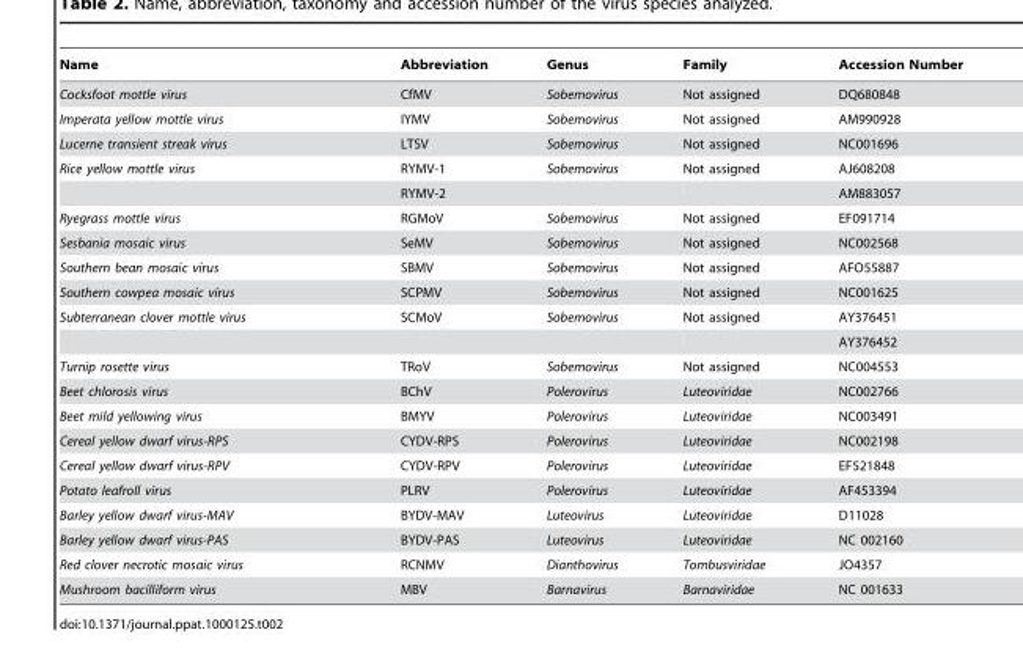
<table><thead><tr><td>Name</td><td>Abbreviation</td><td>Genus</td><td>Family</td><td>Accession Number</td></tr></thead><tbody><tr><td>Cocksfoot mottle virus</td><td>CfMV</td><td>Sobemovirus</td><td>Not assigned</td><td>DQ680848</td></tr><tr><td>Imperata yellow mottle virus</td><td>IYMV</td><td>Sobemovirus</td><td>Not assigned</td><td>AM990928</td></tr><tr><td>Lucerne transient streak virus</td><td>LTSV</td><td>Sobemovirus</td><td>Not assigned</td><td>NC001696</td></tr><tr><td rowspan="2">Rice yellow mottle virus</td><td>RYMV-1</td><td>Sobemovirus</td><td>Not assigned</td><td>AJ608208</td></tr><tr><td>RYMV-2</td><td></td><td></td><td>AM883057</td></tr><tr><td>Ryegrass mottle virus</td><td>RGMoV</td><td>Sobemovirus</td><td>Not assigned</td><td>EF091714</td></tr><tr><td>Sesbania mosaic virus</td><td>SeMV</td><td>Sobemovirus</td><td>Not assigned</td><td>NC002568</td></tr><tr><td>Southern bean mosaic virus</td><td>SBMV</td><td>Sobemovirus</td><td>Not assigned</td><td>AFO55887</td></tr><tr><td>Southern cowpea mosaic virus</td><td>SCPMV</td><td>Sobemovirus</td><td>Not assigned</td><td>NC001625</td></tr><tr><td rowspan="2">Subterranean clover mottle virus</td><td>SCMoV</td><td>Sobemovirus</td><td>Not assigned</td><td>AY376451</td></tr><tr><td></td><td></td><td></td><td>AY376452</td></tr><tr><td>Turnip rosette virus</td><td>TRoV</td><td>Sobemovirus</td><td>Not assigned</td><td>NC004553</td></tr><tr><td>Beet chlorosis virus</td><td>BChV</td><td>Polerovirus</td><td>Luteoviridae</td><td>NC002766</td></tr><tr><td>Beet mild yellowing virus</td><td>BMYV</td><td>Polerovirus</td><td>Luteoviridae</td><td>NC003491</td></tr><tr><td>Cereal yellow dwarf virus-RPS</td><td>CYDV-RPS</td><td>Polerovirus</td><td>Luteoviridae</td><td>NC002198</td></tr><tr><td>Cereal yellow dwarf virus-RPV</td><td>CYDV-RPV</td><td>Polerovirus</td><td>Luteoviridae</td><td>EF521848</td></tr><tr><td>Potato leafroll virus</td><td>PLRV</td><td>Polerovirus</td><td>Luteoviridae</td><td>AF453394</td></tr><tr><td>Barley yellow dwarf virus-MAV</td><td>BYDV-MAV</td><td>Luteovirus</td><td>Luteoviridae</td><td>D11028</td></tr><tr><td>Barley yellow dwarf virus-PAS</td><td>BYDV-PAS</td><td>Luteovirus</td><td>Luteoviridae</td><td>NC 002160</td></tr><tr><td>Red clover necrotic mosaic virus</td><td>RCNMV</td><td>Dianthovirus</td><td>Tombusviridae</td><td>JO4357</td></tr><tr><td>Mushroom bacilliform virus</td><td>MBV</td><td>Barnavirus</td><td>Barnaviridae</td><td>NC 001633</td></tr></tbody></table>